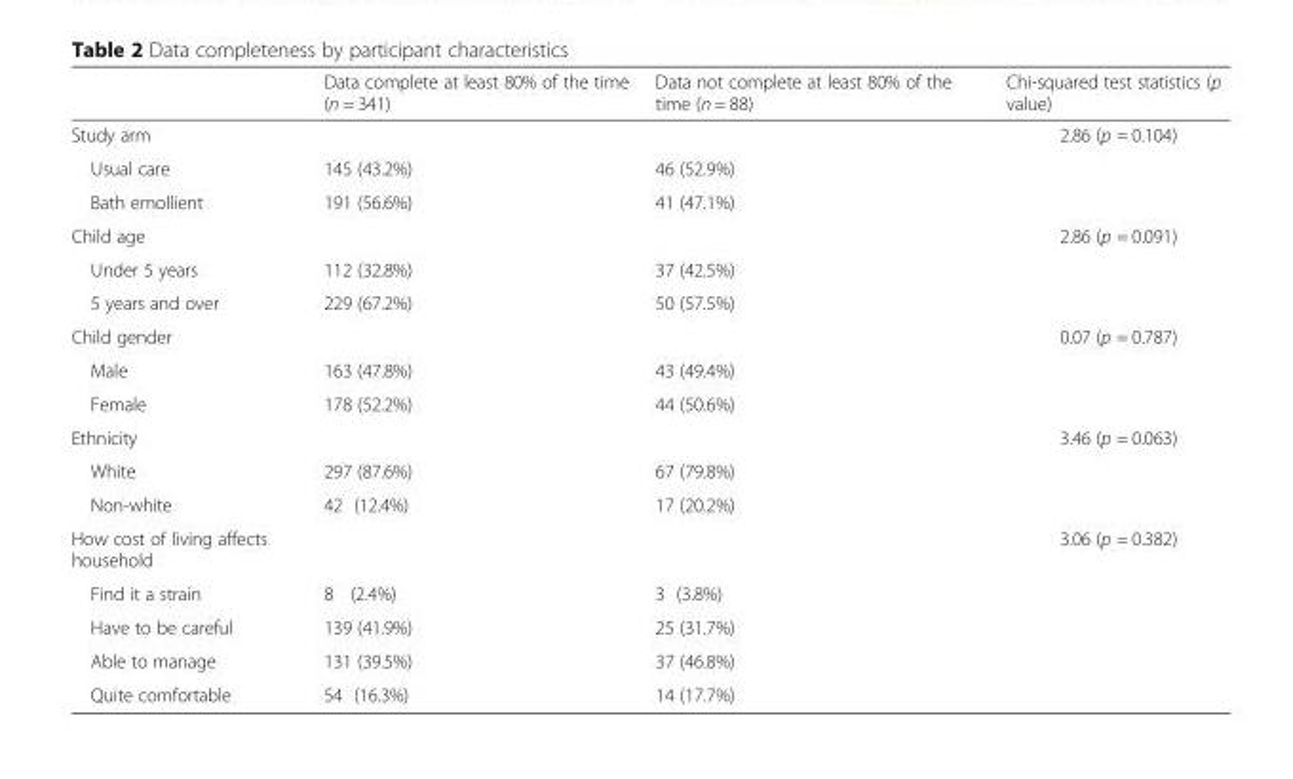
<table><thead><tr><td></td><td>Data complete at least 80% of the time (n = 341)</td><td>Data not complete at least 80% of the time (n = 88)</td><td>Chi-squared test statistics (p value)</td></tr></thead><tbody><tr><td>Study arm</td><td></td><td></td><td>2.86 (p = 0.104)</td></tr><tr><td>Usual care</td><td>145 (43.2%)</td><td>46 (52.9%)</td><td></td></tr><tr><td>Bath emollient</td><td>191 (56.6%)</td><td>41 (47.1%)</td><td></td></tr><tr><td>Child age</td><td></td><td></td><td>2.86 (p = 0.091)</td></tr><tr><td>Under 5 years</td><td>112 (32.8%)</td><td>37 (42.5%)</td><td></td></tr><tr><td>5 years and over</td><td>229 (67.2%)</td><td>50 (57.5%)</td><td></td></tr><tr><td>Child gender</td><td></td><td></td><td>0.07 (p = 0.787)</td></tr><tr><td>Male</td><td>163 (47.8%)</td><td>43 (49.4%)</td><td></td></tr><tr><td>Female</td><td>178 (52.2%)</td><td>44 (50.6%)</td><td></td></tr><tr><td>Ethnicity</td><td></td><td></td><td>3.46 (p = 0.063)</td></tr><tr><td>White</td><td>297 (87.6%)</td><td>67 (79.8%)</td><td></td></tr><tr><td>Non-white</td><td>42 (12.4%)</td><td>17 (20.2%)</td><td></td></tr><tr><td>How cost of living affects household</td><td></td><td></td><td>3.06 (p = 0.382)</td></tr><tr><td>Find it a strain</td><td>8 (2.4%)</td><td>3 (3.8%)</td><td></td></tr><tr><td>Have to be careful</td><td>139 (41.9%)</td><td>25 (31.7%)</td><td></td></tr><tr><td>Able to manage</td><td>131 (39.5%)</td><td>37 (46.8%)</td><td></td></tr><tr><td>Quite comfortable</td><td>54 (16.3%)</td><td>14 (17.7%)</td><td></td></tr></tbody></table>